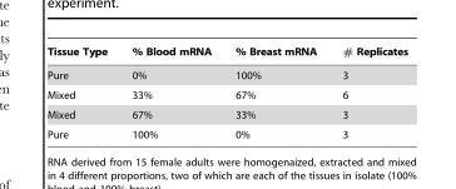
<table><thead><tr><td>Tissue Type</td><td>% Blood mRNA</td><td>% Breast mRNA</td><td># Replicates</td></tr></thead><tbody><tr><td>Pure</td><td>0%</td><td>100%</td><td>3</td></tr><tr><td>Mixed</td><td>33%</td><td>67%</td><td>6</td></tr><tr><td>Mixed</td><td>67%</td><td>33%</td><td>3</td></tr><tr><td>Pure</td><td>100%</td><td>0%</td><td>3</td></tr></tbody></table>